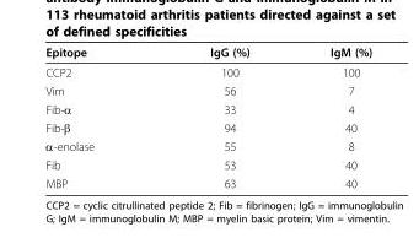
<table><thead><tr><td>Epitope</td><td>IgG (%)</td><td>IgM (%)</td></tr></thead><tbody><tr><td>CCP2</td><td>100</td><td>100</td></tr><tr><td>Vim</td><td>56</td><td>7</td></tr><tr><td>Fib-α</td><td>33</td><td>4</td></tr><tr><td>Fib-β</td><td>94</td><td>40</td></tr><tr><td>α-enolase</td><td>55</td><td>8</td></tr><tr><td>Fib</td><td>53</td><td>40</td></tr><tr><td>MBP</td><td>63</td><td>40</td></tr></tbody></table>